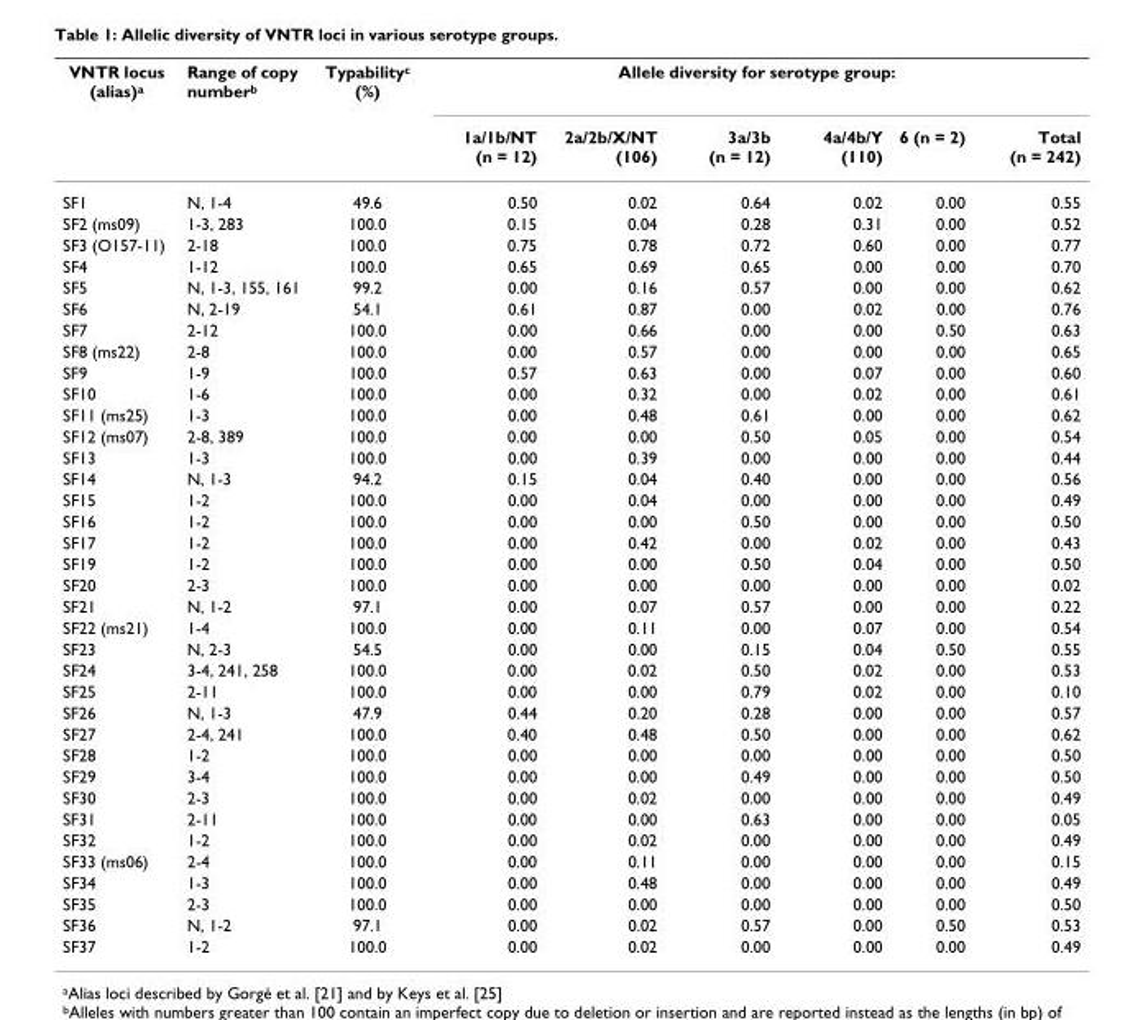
<table><thead><tr><td rowspan="2">VNTR locus (alias)<sup>a</sup></td><td rowspan="2">Range of copy number<sup>b</sup></td><td rowspan="2">Typability<sup>c</sup> (%)</td><td colspan="6">Allele diversity for serotype group:</td></tr><tr><td>1a/1b/NT (n = 12)</td><td>2a/2b/X/NT (106)</td><td>3a/3b (n = 12)</td><td>4a/4b/Y (110)</td><td>6 (n = 2)</td><td>Total (n = 242)</td></tr></thead><tbody><tr><td>SF1</td><td>N, 1-4</td><td>49.6</td><td>0.50</td><td>0.02</td><td>0.64</td><td>0.02</td><td>0.00</td><td>0.55</td></tr><tr><td>SF2 (ms09)</td><td>1-3, 283</td><td>100.0</td><td>0.15</td><td>0.04</td><td>0.28</td><td>0.31</td><td>0.00</td><td>0.52</td></tr><tr><td>SF3 (O157-11)</td><td>2-18</td><td>100.0</td><td>0.75</td><td>0.78</td><td>0.72</td><td>0.60</td><td>0.00</td><td>0.77</td></tr><tr><td>SF4</td><td>1-12</td><td>100.0</td><td>0.65</td><td>0.69</td><td>0.65</td><td>0.00</td><td>0.00</td><td>0.70</td></tr><tr><td>SF5</td><td>N, 1-3, 155, 161</td><td>99.2</td><td>0.00</td><td>0.16</td><td>0.57</td><td>0.00</td><td>0.00</td><td>0.62</td></tr><tr><td>SF6</td><td>N, 2-19</td><td>54.1</td><td>0.61</td><td>0.87</td><td>0.00</td><td>0.02</td><td>0.00</td><td>0.76</td></tr><tr><td>SF7</td><td>2-12</td><td>100.0</td><td>0.00</td><td>0.66</td><td>0.00</td><td>0.00</td><td>0.50</td><td>0.63</td></tr><tr><td>SF8 (ms22)</td><td>2-8</td><td>100.0</td><td>0.00</td><td>0.57</td><td>0.00</td><td>0.00</td><td>0.00</td><td>0.65</td></tr><tr><td>SF9</td><td>1-9</td><td>100.0</td><td>0.57</td><td>0.63</td><td>0.00</td><td>0.07</td><td>0.00</td><td>0.60</td></tr><tr><td>SF10</td><td>1-6</td><td>100.0</td><td>0.00</td><td>0.32</td><td>0.00</td><td>0.02</td><td>0.00</td><td>0.61</td></tr><tr><td>SF11 (ms25)</td><td>1-3</td><td>100.0</td><td>0.00</td><td>0.48</td><td>0.61</td><td>0.00</td><td>0.00</td><td>0.62</td></tr><tr><td>SF12 (ms07)</td><td>2-8, 389</td><td>100.0</td><td>0.00</td><td>0.00</td><td>0.50</td><td>0.05</td><td>0.00</td><td>0.54</td></tr><tr><td>SF13</td><td>1-3</td><td>100.0</td><td>0.00</td><td>0.39</td><td>0.00</td><td>0.00</td><td>0.00</td><td>0.44</td></tr><tr><td>SF14</td><td>N, 1-3</td><td>94.2</td><td>0.15</td><td>0.04</td><td>0.40</td><td>0.00</td><td>0.00</td><td>0.56</td></tr><tr><td>SF15</td><td>1-2</td><td>100.0</td><td>0.00</td><td>0.04</td><td>0.00</td><td>0.00</td><td>0.00</td><td>0.49</td></tr><tr><td>SF16</td><td>1-2</td><td>100.0</td><td>0.00</td><td>0.00</td><td>0.50</td><td>0.00</td><td>0.00</td><td>0.50</td></tr><tr><td>SF17</td><td>1-2</td><td>100.0</td><td>0.00</td><td>0.42</td><td>0.00</td><td>0.02</td><td>0.00</td><td>0.43</td></tr><tr><td>SF19</td><td>1-2</td><td>100.0</td><td>0.00</td><td>0.00</td><td>0.50</td><td>0.04</td><td>0.00</td><td>0.50</td></tr><tr><td>SF20</td><td>2-3</td><td>100.0</td><td>0.00</td><td>0.00</td><td>0.00</td><td>0.00</td><td>0.00</td><td>0.02</td></tr><tr><td>SF21</td><td>N, 1-2</td><td>97.1</td><td>0.00</td><td>0.07</td><td>0.57</td><td>0.00</td><td>0.00</td><td>0.22</td></tr><tr><td>SF22 (ms21)</td><td>1-4</td><td>100.0</td><td>0.00</td><td>0.11</td><td>0.00</td><td>0.07</td><td>0.00</td><td>0.54</td></tr><tr><td>SF23</td><td>N, 2-3</td><td>54.5</td><td>0.00</td><td>0.00</td><td>0.15</td><td>0.04</td><td>0.50</td><td>0.55</td></tr><tr><td>SF24</td><td>3-4, 241, 258</td><td>100.0</td><td>0.00</td><td>0.02</td><td>0.50</td><td>0.02</td><td>0.00</td><td>0.53</td></tr><tr><td>SF25</td><td>2-11</td><td>100.0</td><td>0.00</td><td>0.00</td><td>0.79</td><td>0.02</td><td>0.00</td><td>0.10</td></tr><tr><td>SF26</td><td>N, 1-3</td><td>47.9</td><td>0.44</td><td>0.20</td><td>0.28</td><td>0.00</td><td>0.00</td><td>0.57</td></tr><tr><td>SF27</td><td>2-4, 241</td><td>100.0</td><td>0.40</td><td>0.48</td><td>0.50</td><td>0.00</td><td>0.00</td><td>0.62</td></tr><tr><td>SF28</td><td>1-2</td><td>100.0</td><td>0.00</td><td>0.00</td><td>0.00</td><td>0.00</td><td>0.00</td><td>0.50</td></tr><tr><td>SF29</td><td>3-4</td><td>100.0</td><td>0.00</td><td>0.00</td><td>0.49</td><td>0.00</td><td>0.00</td><td>0.50</td></tr><tr><td>SF30</td><td>2-3</td><td>100.0</td><td>0.00</td><td>0.02</td><td>0.00</td><td>0.00</td><td>0.00</td><td>0.49</td></tr><tr><td>SF31</td><td>2-11</td><td>100.0</td><td>0.00</td><td>0.00</td><td>0.63</td><td>0.00</td><td>0.00</td><td>0.05</td></tr><tr><td>SF32</td><td>1-2</td><td>100.0</td><td>0.00</td><td>0.02</td><td>0.00</td><td>0.00</td><td>0.00</td><td>0.49</td></tr><tr><td>SF33 (ms06)</td><td>2-4</td><td>100.0</td><td>0.00</td><td>0.11</td><td>0.00</td><td>0.00</td><td>0.00</td><td>0.15</td></tr><tr><td>SF34</td><td>1-3</td><td>100.0</td><td>0.00</td><td>0.48</td><td>0.00</td><td>0.00</td><td>0.00</td><td>0.49</td></tr><tr><td>SF35</td><td>2-3</td><td>100.0</td><td>0.00</td><td>0.00</td><td>0.00</td><td>0.00</td><td>0.00</td><td>0.50</td></tr><tr><td>SF36</td><td>N, 1-2</td><td>97.1</td><td>0.00</td><td>0.02</td><td>0.57</td><td>0.00</td><td>0.50</td><td>0.53</td></tr><tr><td>SF37</td><td>1-2</td><td>100.0</td><td>0.00</td><td>0.02</td><td>0.00</td><td>0.00</td><td>0.00</td><td>0.49</td></tr></tbody></table>